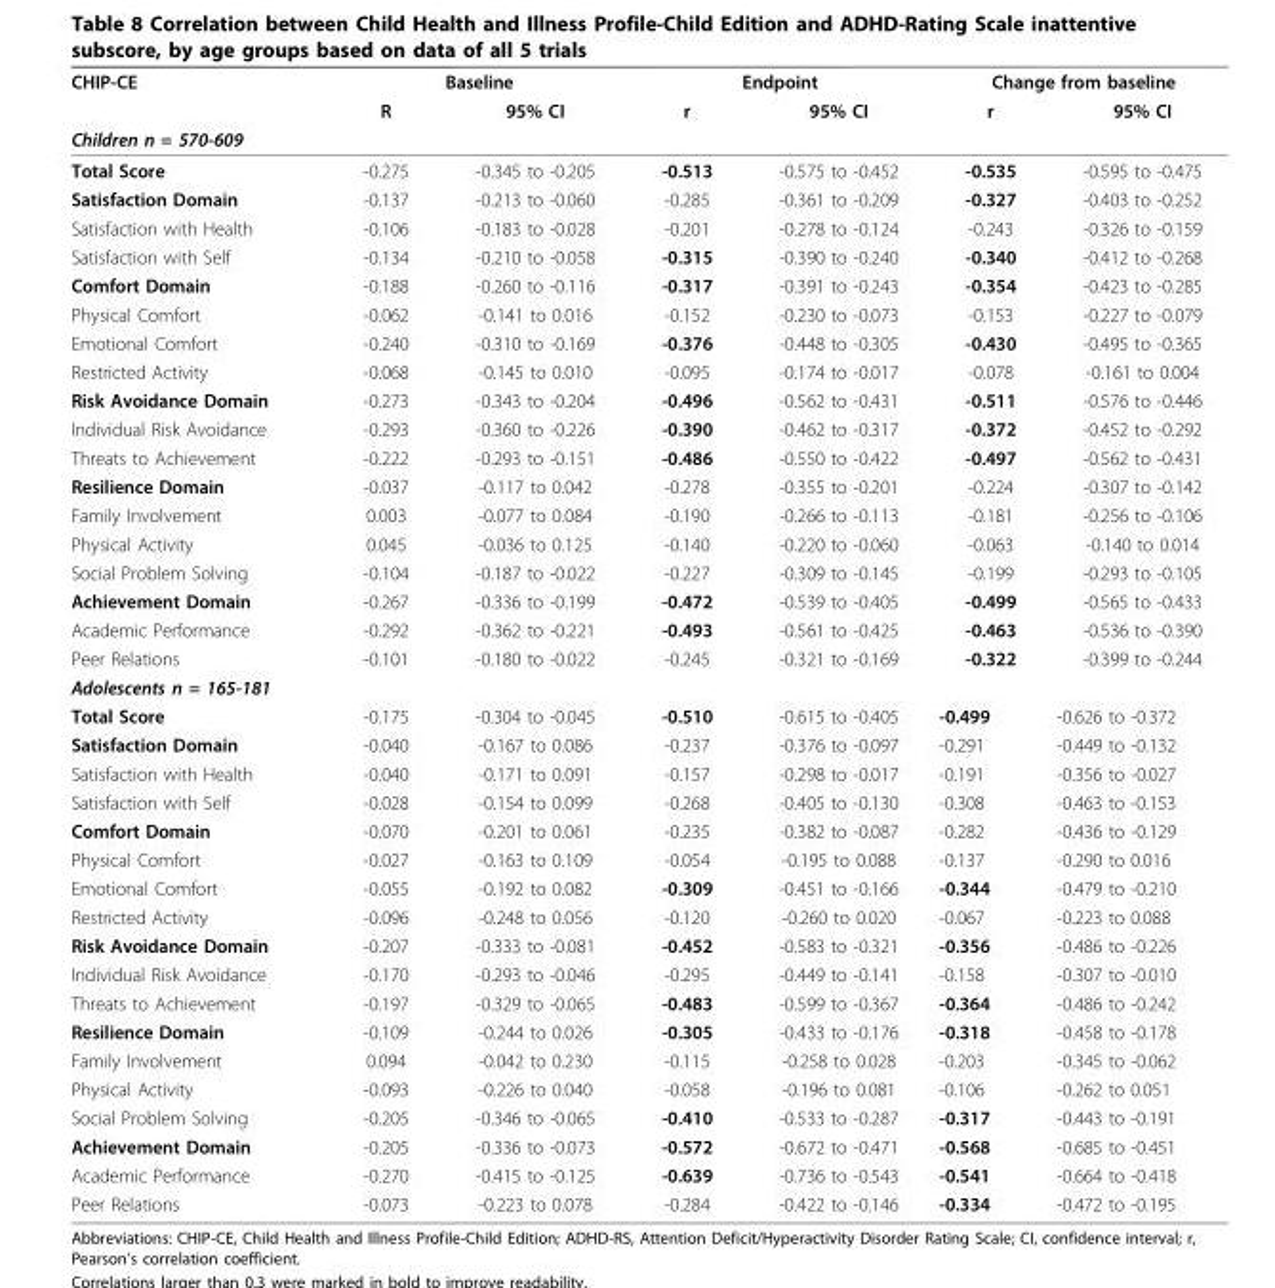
<table><thead><tr><td rowspan="3">CHIP-CE Children n = 570-609</td><td colspan="2">Baseline</td><td colspan="2">Endpoint</td><td colspan="2">Change from baseline</td></tr><tr><td rowspan="2">R</td><td rowspan="2">95% CI</td><td rowspan="2">r</td><td rowspan="2">95% CI</td><td rowspan="2">r</td><td rowspan="2">95% CI</td></tr><tr></tr></thead><tbody><tr><td>Total Score</td><td>-0.275</td><td>-0.345 to -0.205</td><td>-0.513</td><td>-0.575 to -0.452</td><td>-0.535</td><td>-0.595 to -0.475</td></tr><tr><td>Satisfaction Domain</td><td>-0.137</td><td>-0.213 to -0.060</td><td>-0.285</td><td>-0.361 to -0.209</td><td>-0.327</td><td>-0.403 to -0.252</td></tr><tr><td>Satisfaction with Health</td><td>-0.106</td><td>-0.183 to -0.028</td><td>-0.201</td><td>-0.278 to -0.124</td><td>-0.243</td><td>-0.326 to -0.159</td></tr><tr><td>Satisfaction with Self</td><td>-0.134</td><td>-0.210 to -0.058</td><td>-0.315</td><td>-0.390 to -0.240</td><td>-0.340</td><td>-0.412 to -0.268</td></tr><tr><td>Comfort Domain</td><td>-0.188</td><td>-0.260 to -0.116</td><td>-0.317</td><td>-0.391 to -0.243</td><td>-0.354</td><td>-0.423 to -0.285</td></tr><tr><td>Physical Comfort</td><td>-0.062</td><td>-0.141 to 0.016</td><td>-0.152</td><td>-0.230 to -0.073</td><td>-0.153</td><td>-0.227 to -0.079</td></tr><tr><td>Emotional Comfort</td><td>-0.240</td><td>-0.310 to -0.169</td><td>-0.376</td><td>-0.448 to -0.305</td><td>-0.430</td><td>-0.495 to -0.365</td></tr><tr><td>Restricted Activity</td><td>-0.068</td><td>-0.145 to 0.010</td><td>-0.095</td><td>-0.174 to -0.017</td><td>-0.078</td><td>-0.161 to 0.004</td></tr><tr><td>Risk Avoidance Domain</td><td>-0.273</td><td>-0.343 to -0.204</td><td>-0.496</td><td>-0.562 to -0.431</td><td>-0.511</td><td>-0.576 to -0.446</td></tr><tr><td>Individual Risk Avoidance</td><td>-0.293</td><td>-0.360 to -0.226</td><td>-0.390</td><td>-0.462 to -0.317</td><td>-0.372</td><td>-0.452 to -0.292</td></tr><tr><td>Threats to Achievement</td><td>-0.222</td><td>-0.293 to -0.151</td><td>-0.486</td><td>-0.550 to -0.422</td><td>-0.497</td><td>-0.562 to -0.431</td></tr><tr><td>Resilience Domain</td><td>-0.037</td><td>-0.117 to 0.042</td><td>-0.278</td><td>-0.355 to -0.201</td><td>-0.224</td><td>-0.307 to -0.142</td></tr><tr><td>Family Involvement</td><td>0.003</td><td>-0.077 to 0.084</td><td>-0.190</td><td>-0.266 to -0.113</td><td>-0.181</td><td>-0.256 to -0.106</td></tr><tr><td>Physical Activity</td><td>0.045</td><td>-0.036 to 0.125</td><td>-0.140</td><td>-0.220 to -0.060</td><td>-0.063</td><td>-0.140 to 0.014</td></tr><tr><td>Social Problem Solving</td><td>-0.104</td><td>-0.187 to -0.022</td><td>-0.227</td><td>-0.309 to -0.145</td><td>-0.199</td><td>-0.293 to -0.105</td></tr><tr><td>Achievement Domain</td><td>-0.267</td><td>-0.336 to -0.199</td><td>-0.472</td><td>-0.539 to -0.405</td><td>-0.499</td><td>-0.565 to -0.433</td></tr><tr><td>Academic Performance</td><td>-0.292</td><td>-0.362 to -0.221</td><td>-0.493</td><td>-0.561 to -0.425</td><td>-0.463</td><td>-0.536 to -0.390</td></tr><tr><td>Peer Relations</td><td>-0.101</td><td>-0.180 to -0.022</td><td>-0.245</td><td>-0.321 to -0.169</td><td>-0.322</td><td>-0.399 to -0.244</td></tr><tr><td colspan="7">Adolescents n = 165-181</td></tr><tr><td>Total Score</td><td>-0.175</td><td>-0.304 to -0.045</td><td>-0.510</td><td>-0.615 to -0.405</td><td>-0.499</td><td>-0.626 to -0.372</td></tr><tr><td>Satisfaction Domain</td><td>-0.040</td><td>-0.167 to 0.086</td><td>-0.237</td><td>-0.376 to -0.097</td><td>-0.291</td><td>-0.449 to -0.132</td></tr><tr><td>Satisfaction with Health</td><td>-0.040</td><td>-0.171 to 0.091</td><td>-0.157</td><td>-0.298 to -0.017</td><td>-0.191</td><td>-0.356 to -0.027</td></tr><tr><td>Satisfaction with Self</td><td>-0.028</td><td>-0.154 to 0.099</td><td>-0.268</td><td>-0.405 to -0.130</td><td>-0.308</td><td>-0.463 to -0.153</td></tr><tr><td>Comfort Domain</td><td>-0.070</td><td>-0.201 to 0.061</td><td>-0.235</td><td>-0.382 to -0.087</td><td>-0.282</td><td>-0.436 to -0.129</td></tr><tr><td>Physical Comfort</td><td>-0.027</td><td>-0.163 to 0.109</td><td>-0.054</td><td>-0.195 to 0.088</td><td>-0.137</td><td>-0.290 to 0.016</td></tr><tr><td>Emotional Comfort</td><td>-0.055</td><td>-0.192 to 0.082</td><td>-0.309</td><td>-0.451 to -0.166</td><td>-0.344</td><td>-0.479 to -0.210</td></tr><tr><td>Restricted Activity</td><td>-0.096</td><td>-0.248 to 0.056</td><td>-0.120</td><td>-0.260 to 0.020</td><td>-0.067</td><td>-0.223 to 0.088</td></tr><tr><td>Risk Avoidance Domain</td><td>-0.207</td><td>-0.333 to -0.081</td><td>-0.452</td><td>-0.583 to -0.321</td><td>-0.356</td><td>-0.486 to -0.226</td></tr><tr><td>Individual Risk Avoidance</td><td>-0.170</td><td>-0.293 to -0.046</td><td>-0.295</td><td>-0.449 to -0.141</td><td>-0.158</td><td>-0.307 to -0.010</td></tr><tr><td>Threats to Achievement</td><td>-0.197</td><td>-0.329 to -0.065</td><td>-0.483</td><td>-0.599 to -0.367</td><td>-0.364</td><td>-0.486 to -0.242</td></tr><tr><td>Resilience Domain</td><td>-0.109</td><td>-0.244 to 0.026</td><td>-0.305</td><td>-0.433 to -0.176</td><td>-0.318</td><td>-0.458 to -0.178</td></tr><tr><td>Family Involvement</td><td>0.094</td><td>-0.042 to 0.230</td><td>-0.115</td><td>-0.258 to 0.028</td><td>-0.203</td><td>-0.345 to -0.062</td></tr><tr><td>Physical Activity</td><td>-0.093</td><td>-0.226 to 0.040</td><td>-0.058</td><td>-0.196 to 0.081</td><td>-0.106</td><td>-0.262 to 0.051</td></tr><tr><td>Social Problem Solving</td><td>-0.205</td><td>-0.346 to -0.065</td><td>-0.410</td><td>-0.533 to -0.287</td><td>-0.317</td><td>-0.443 to -0.191</td></tr><tr><td>Achievement Domain</td><td>-0.205</td><td>-0.336 to -0.073</td><td>-0.572</td><td>-0.672 to -0.471</td><td>-0.568</td><td>-0.685 to -0.451</td></tr><tr><td>Academic Performance</td><td>-0.270</td><td>-0.415 to -0.125</td><td>-0.639</td><td>-0.736 to -0.543</td><td>-0.541</td><td>-0.664 to -0.418</td></tr><tr><td>Peer Relations</td><td>-0.073</td><td>-0.223 to 0.078</td><td>-0.284</td><td>-0.422 to -0.146</td><td>-0.334</td><td>-0.472 to -0.195</td></tr></tbody></table>